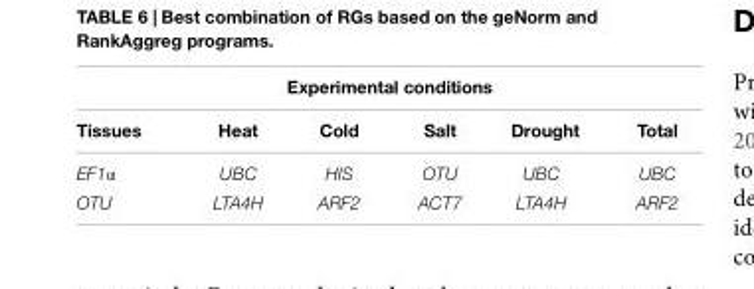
<table><thead><tr><td colspan="6">Experimental conditions</td></tr><tr><td>Tissues</td><td>Heat</td><td>Cold</td><td>Salt</td><td>Drought</td><td>Total</td></tr></thead><tbody><tr><td>EF1α</td><td>UBC</td><td>HIS</td><td>OTU</td><td>UBC</td><td>UBC</td></tr><tr><td>OTU</td><td>LTA4H</td><td>ARF2</td><td>ACT7</td><td>LTA4H</td><td>ARF2</td></tr></tbody></table>